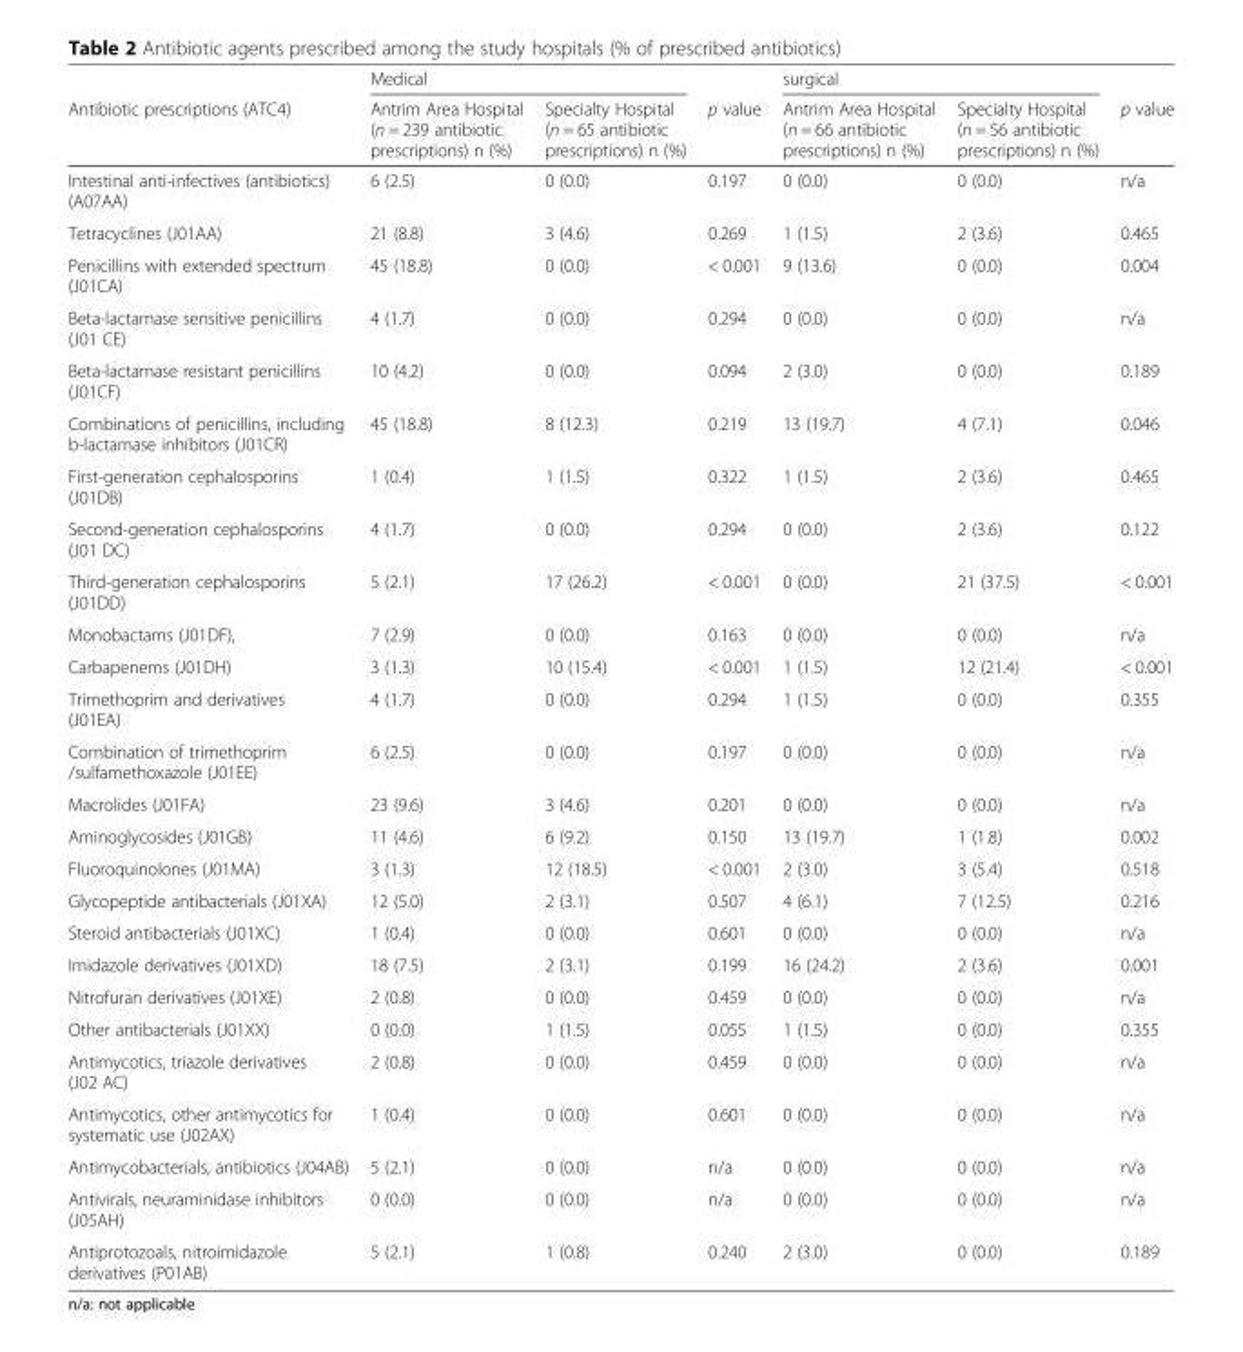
<table><thead><tr><td rowspan="2">Antibiotic prescriptions (ATC4)</td><td colspan="2">Medical</td><td rowspan="2">p value</td><td colspan="2">surgical</td><td rowspan="2">p value</td></tr><tr><td>Antrim Area Hospital (n = 239 antibiotic prescriptions) n (%)</td><td>Specialty Hospital (n = 65 antibiotic prescriptions) n (%)</td><td>Antrim Area Hospital (n = 66 antibiotic prescriptions) n (%)</td><td>Specialty Hospital (n = 56 antibiotic prescriptions) n (%)</td></tr></thead><tbody><tr><td>Intestinal anti-infectives (antibiotics) (A07AA)</td><td>6 (2.5)</td><td>0 (0.0)</td><td>0.197</td><td>0 (0.0)</td><td>0 (0.0)</td><td>n/a</td></tr><tr><td>Tetracyclines (J01AA)</td><td>21 (8.8)</td><td>3 (4.6)</td><td>0.269</td><td>1 (1.5)</td><td>2 (3.6)</td><td>0.465</td></tr><tr><td>Penicillins with extended spectrum (J01CA)</td><td>45 (18.8)</td><td>0 (0.0)</td><td>&lt; 0.001</td><td>9 (13.6)</td><td>0 (0.0)</td><td>0.004</td></tr><tr><td>Beta-lactamase sensitive penicillins (J01 CE)</td><td>4 (1.7)</td><td>0 (0.0)</td><td>0.294</td><td>0 (0.0)</td><td>0 (0.0)</td><td>n/a</td></tr><tr><td>Beta-lactamase resistant penicillins (J01CF)</td><td>10 (4.2)</td><td>0 (0.0)</td><td>0.094</td><td>2 (3.0)</td><td>0 (0.0)</td><td>0.189</td></tr><tr><td>Combinations of penicillins, including b-lactamase inhibitors (J01CR)</td><td>45 (18.8)</td><td>8 (12.3)</td><td>0.219</td><td>13 (19.7)</td><td>4 (7.1)</td><td>0.046</td></tr><tr><td>First-generation cephalosporins (J01DB)</td><td>1 (0.4)</td><td>1 (1.5)</td><td>0.322</td><td>1 (1.5)</td><td>2 (3.6)</td><td>0.465</td></tr><tr><td>Second-generation cephalosporins (J01 DC)</td><td>4 (1.7)</td><td>0 (0.0)</td><td>0.294</td><td>0 (0.0)</td><td>2 (3.6)</td><td>0.122</td></tr><tr><td>Third-generation cephalosporins (J01DD)</td><td>5 (2.1)</td><td>17 (26.2)</td><td>&lt; 0.001</td><td>0 (0.0)</td><td>21 (37.5)</td><td>&lt; 0.001</td></tr><tr><td>Monobactams (J01DF),</td><td>7 (2.9)</td><td>0 (0.0)</td><td>0.163</td><td>0 (0.0)</td><td>0 (0.0)</td><td>n/a</td></tr><tr><td>Carbapenems (J01DH)</td><td>3 (1.3)</td><td>10 (15.4)</td><td>&lt; 0.001</td><td>1 (1.5)</td><td>12 (21.4)</td><td>&lt; 0.001</td></tr><tr><td>Trimethoprim and derivatives (J01EA)</td><td>4 (1.7)</td><td>0 (0.0)</td><td>0.294</td><td>1 (1.5)</td><td>0 (0.0)</td><td>0.355</td></tr><tr><td>Combination of trimethoprim /sulfamethoxazole (J01EE)</td><td>6 (2.5)</td><td>0 (0.0)</td><td>0.197</td><td>0 (0.0)</td><td>0 (0.0)</td><td>n/a</td></tr><tr><td>Macrolides (J01FA)</td><td>23 (9.6)</td><td>3 (4.6)</td><td>0.201</td><td>0 (0.0)</td><td>0 (0.0)</td><td>n/a</td></tr><tr><td>Aminoglycosides (J01GB)</td><td>11 (4.6)</td><td>6 (9.2)</td><td>0.150</td><td>13 (19.7)</td><td>1 (1.8)</td><td>0.002</td></tr><tr><td>Fluoroquinolones (J01MA)</td><td>3 (1.3)</td><td>12 (18.5)</td><td>&lt; 0.001</td><td>2 (3.0)</td><td>3 (5.4)</td><td>0.518</td></tr><tr><td>Glycopeptide antibacterials (J01XA)</td><td>12 (5.0)</td><td>2 (3.1)</td><td>0.507</td><td>4 (6.1)</td><td>7 (12.5)</td><td>0.216</td></tr><tr><td>Steroid antibacterials (J01XC)</td><td>1 (0.4)</td><td>0 (0.0)</td><td>0.601</td><td>0 (0.0)</td><td>0 (0.0)</td><td>n/a</td></tr><tr><td>Imidazole derivatives (J01XD)</td><td>18 (7.5)</td><td>2 (3.1)</td><td>0.199</td><td>16 (24.2)</td><td>2 (3.6)</td><td>0.001</td></tr><tr><td>Nitrofuran derivatives (J01XE)</td><td>2 (0.8)</td><td>0 (0.0)</td><td>0.459</td><td>0 (0.0)</td><td>0 (0.0)</td><td>n/a</td></tr><tr><td>Other antibacterials (J01XX)</td><td>0 (0.0)</td><td>1 (1.5)</td><td>0.055</td><td>1 (1.5)</td><td>0 (0.0)</td><td>0.355</td></tr><tr><td>Antimycotics, triazole derivatives (J02 AC)</td><td>2 (0.8)</td><td>0 (0.0)</td><td>0.459</td><td>0 (0.0)</td><td>0 (0.0)</td><td>n/a</td></tr><tr><td>Antimycotics, other antimycotics for systematic use (J02AX)</td><td>1 (0.4)</td><td>0 (0.0)</td><td>0.601</td><td>0 (0.0)</td><td>0 (0.0)</td><td>n/a</td></tr><tr><td>Antimycobacterials, antibiotics (J04AB)</td><td>5 (2.1)</td><td>0 (0.0)</td><td>n/a</td><td>0 (0.0)</td><td>0 (0.0)</td><td>n/a</td></tr><tr><td>Antivirals, neuraminidase inhibitors (J05AH)</td><td>0 (0.0)</td><td>0 (0.0)</td><td>n/a</td><td>0 (0.0)</td><td>0 (0.0)</td><td>n/a</td></tr><tr><td>Antiprotozoals, nitroimidazole derivatives (P01AB)</td><td>5 (2.1)</td><td>1 (0.8)</td><td>0.240</td><td>2 (3.0)</td><td>0 (0.0)</td><td>0.189</td></tr></tbody></table>